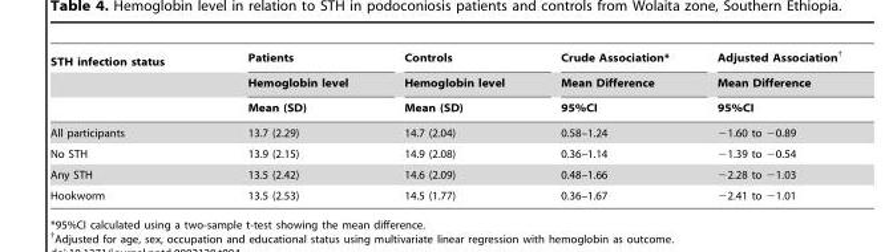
<table><thead><tr><td rowspan="3">STH infection status</td><td rowspan="3">Patients Hemoglobin level Mean (SD)</td><td rowspan="3">Controls Hemoglobin level Mean (SD)</td><td rowspan="3">Crude Association* Mean Difference 95%CI</td><td rowspan="3">Adjusted Association† Mean Difference 95%CI</td></tr><tr></tr><tr></tr></thead><tbody><tr><td>All participants</td><td>13.7 (2.29)</td><td>14.7 (2.04)</td><td>0.58–1.24</td><td>−1.60 to −0.89</td></tr><tr><td>No STH</td><td>13.9 (2.15)</td><td>14.9 (2.08)</td><td>0.36–1.14</td><td>−1.39 to −0.54</td></tr><tr><td>Any STH</td><td>13.5 (2.42)</td><td>14.6 (2.09)</td><td>0.48–1.66</td><td>−2.28 to −1.03</td></tr><tr><td>Hookworm</td><td>13.5 (2.53)</td><td>14.5 (1.77)</td><td>0.36–1.67</td><td>−2.41 to −1.01</td></tr></tbody></table>